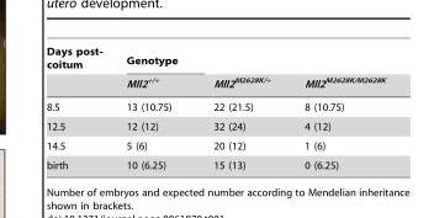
<table><thead><tr><td rowspan="2">Days post- coitum</td><td rowspan="2">Genotype Mll2<sup>+/+</sup></td><td rowspan="2">Mll2<sup>M2628K/+</sup></td><td rowspan="2">Mll2<sup>M2628K/M2628K</sup></td></tr><tr></tr></thead><tbody><tr><td>8.5</td><td>13 (10.75)</td><td>22 (21.5)</td><td>8 (10.75)</td></tr><tr><td>12.5</td><td>12 (12)</td><td>32 (24)</td><td>4 (12)</td></tr><tr><td>14.5</td><td>5 (6)</td><td>20 (12)</td><td>1 (6)</td></tr><tr><td>birth</td><td>10 (6.25)</td><td>15 (13)</td><td>0 (6.25)</td></tr></tbody></table>